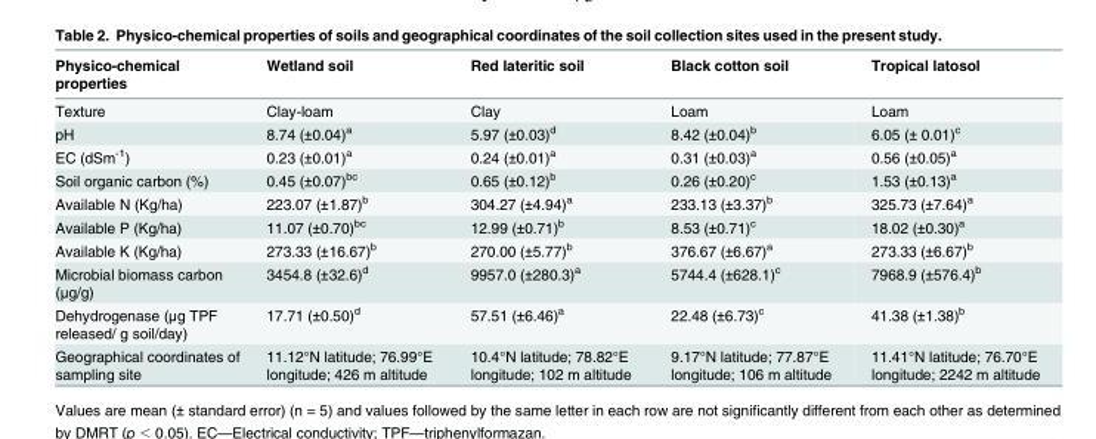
<table><thead><tr><td>Physico-chemical properties</td><td>Wetland soil</td><td>Red lateritic soil</td><td>Black cotton soil</td><td>Tropical latosol</td></tr></thead><tbody><tr><td>Texture</td><td>Clay-loam</td><td>Clay</td><td>Loam</td><td>Loam</td></tr><tr><td>pH</td><td>8.74 (±0.04)<sup>a</sup></td><td>5.97 (±0.03)<sup>d</sup></td><td>8.42 (±0.04)<sup>b</sup></td><td>6.05 (± 0.01)<sup>c</sup></td></tr><tr><td>EC (dSm<sup>-1</sup>)</td><td>0.23 (±0.01)<sup>a</sup></td><td>0.24 (±0.01)<sup>a</sup></td><td>0.31 (±0.03)<sup>a</sup></td><td>0.56 (±0.05)<sup>a</sup></td></tr><tr><td>Soil organic carbon (%)</td><td>0.45 (±0.07)<sup>bc</sup></td><td>0.65 (±0.12)<sup>b</sup></td><td>0.26 (±0.20)<sup>c</sup></td><td>1.53 (±0.13)<sup>a</sup></td></tr><tr><td>Available N (Kg/ha)</td><td>223.07 (±1.87)<sup>b</sup></td><td>304.27 (±4.94)<sup>a</sup></td><td>233.13 (±3.37)<sup>b</sup></td><td>325.73 (±7.64)<sup>a</sup></td></tr><tr><td>Available P (Kg/ha)</td><td>11.07 (±0.70)<sup>bc</sup></td><td>12.99 (±0.71)<sup>b</sup></td><td>8.53 (±0.71)<sup>c</sup></td><td>18.02 (±0.30)<sup>a</sup></td></tr><tr><td>Available K (Kg/ha)</td><td>273.33 (±16.67)<sup>b</sup></td><td>270.00 (±5.77)<sup>b</sup></td><td>376.67 (±6.67)<sup>a</sup></td><td>273.33 (±6.67)<sup>b</sup></td></tr><tr><td>Microbial biomass carbon (μg/g)</td><td>3454.8 (±32.6)<sup>d</sup></td><td>9957.0 (±280.3)<sup>a</sup></td><td>5744.4 (±628.1)<sup>c</sup></td><td>7968.9 (±576.4)<sup>b</sup></td></tr><tr><td>Dehydrogenase (μg TPF released/ g soil/day)</td><td>17.71 (±0.50)<sup>d</sup></td><td>57.51 (±6.46)<sup>a</sup></td><td>22.48 (±6.73)<sup>c</sup></td><td>41.38 (±1.38)<sup>b</sup></td></tr><tr><td>Geographical coordinates of sampling site</td><td>11.12°N latitude; 76.99°E longitude; 426 m altitude</td><td>10.4°N latitude; 78.82°E longitude; 102 m altitude</td><td>9.17°N latitude; 77.87°E longitude; 106 m altitude</td><td>11.41°N latitude; 76.70°E longitude; 2242 m altitude</td></tr></tbody></table>